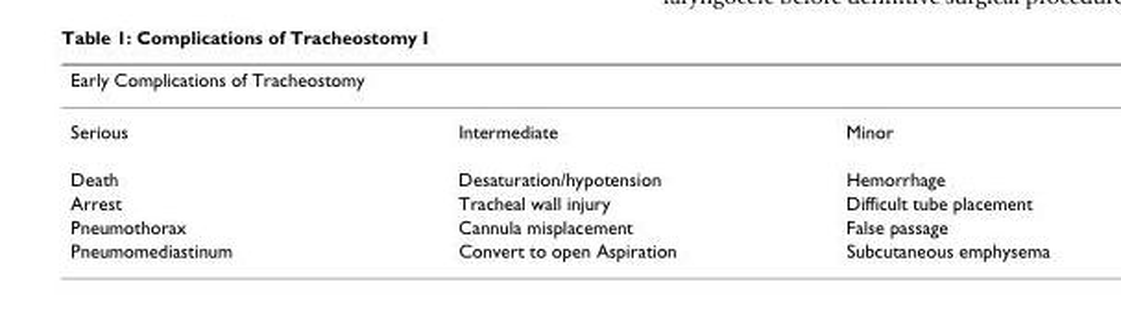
<table><thead><tr><td colspan="3">Early Complications of Tracheostomy</td></tr><tr><td>Serious</td><td>Intermediate</td><td>Minor</td></tr></thead><tbody><tr><td>Death</td><td>Desaturation/hypotension</td><td>Hemorrhage</td></tr><tr><td>Arrest</td><td>Tracheal wall injury</td><td>Difficult tube placement</td></tr><tr><td>Pneumothorax</td><td>Cannula misplacement</td><td>False passage</td></tr><tr><td>Pneumomediastinum</td><td>Convert to open Aspiration</td><td>Subcutaneous emphysema</td></tr></tbody></table>